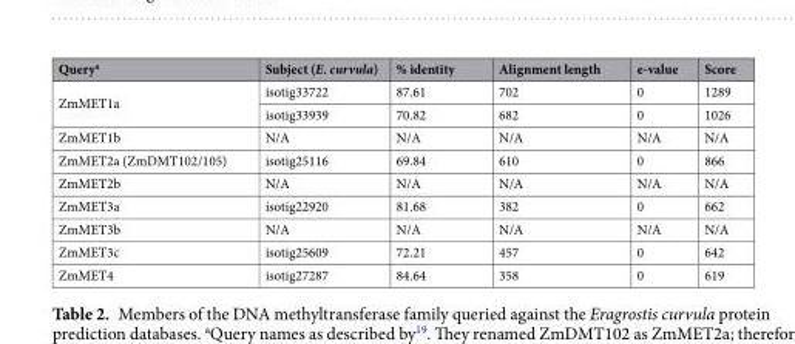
<table><thead><tr><td>Query<sup>a</sup></td><td>Subject (E. curvula)</td><td>% identity</td><td>Alignment length</td><td>e-value</td><td>Score</td></tr></thead><tbody><tr><td rowspan="2">ZmMET1a</td><td>isotig33722</td><td>87.61</td><td>702</td><td>0</td><td>1289</td></tr><tr><td>isotig33939</td><td>70.82</td><td>682</td><td>0</td><td>1026</td></tr><tr><td>ZmMET1b</td><td>N/A</td><td>N/A</td><td>N/A</td><td>N/A</td><td>N/A</td></tr><tr><td>ZmMET2a (ZmDMT102/105)</td><td>isotig25116</td><td>69.84</td><td>610</td><td>0</td><td>866</td></tr><tr><td>ZmMET2b</td><td>N/A</td><td>N/A</td><td>N/A</td><td>N/A</td><td>N/A</td></tr><tr><td>ZmMET3a</td><td>isotig22920</td><td>81.68</td><td>382</td><td>0</td><td>662</td></tr><tr><td>ZmMET3b</td><td>N/A</td><td>N/A</td><td>N/A</td><td>N/A</td><td>N/A</td></tr><tr><td>ZmMET3c</td><td>isotig25609</td><td>72.21</td><td>457</td><td>0</td><td>642</td></tr><tr><td>ZmMET4</td><td>isotig27287</td><td>84.64</td><td>358</td><td>0</td><td>619</td></tr></tbody></table>